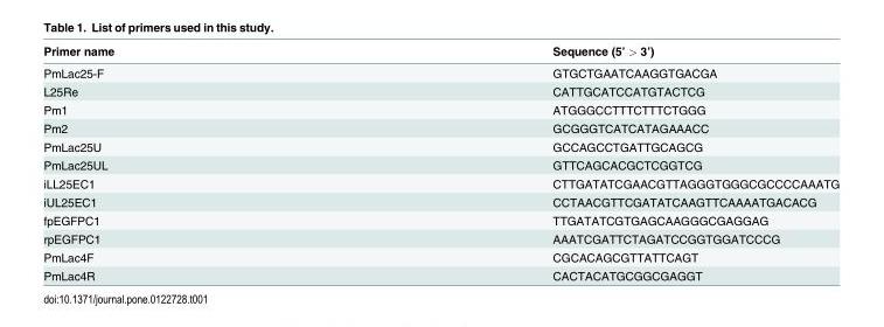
<table><thead><tr><td>Primer name</td><td>Sequence (5’ &gt; 3’)</td></tr></thead><tbody><tr><td>PmLac25-F</td><td>GTGCTGAATCAAGGTGACGA</td></tr><tr><td>L25Re</td><td>CATTGCATCCATGTACTCG</td></tr><tr><td>Pm1</td><td>ATGGGCCTTTCTTTCTGGG</td></tr><tr><td>Pm2</td><td>GCGGGTCATCATAGAAACC</td></tr><tr><td>PmLac25U</td><td>GCCAGCCTGATTGCAGCG</td></tr><tr><td>PmLac25UL</td><td>GTTCAGCACGCTCGGTCG</td></tr><tr><td>iLL25EC1</td><td>CTTGATATCGAACGTTAGGGTGGGCGCCCCAAATG</td></tr><tr><td>iUL25EC1</td><td>CCTAACGTTCGATATCAAGTTCAAAATGACACG</td></tr><tr><td>fpEGFPC1</td><td>TTGATATCGTGAGCAAGGGCGAGGAG</td></tr><tr><td>rpEGFPC1</td><td>AAATCGATTCTAGATCCGGTGGATCCCG</td></tr><tr><td>PmLac4F</td><td>CGCACAGCGTTATTCAGT</td></tr><tr><td>PmLac4R</td><td>CACTACATGCGGCGAGGT</td></tr></tbody></table>